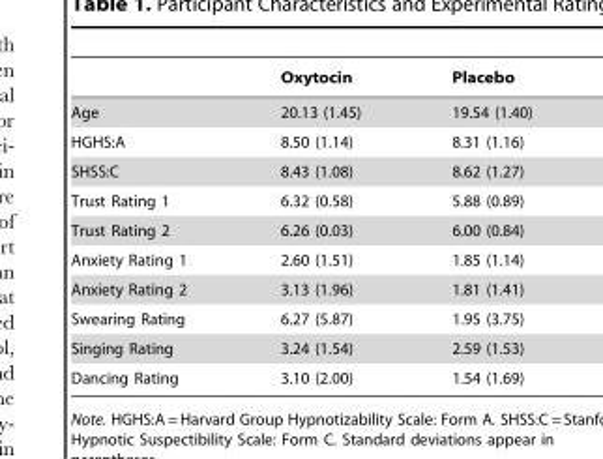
<table><thead><tr><td></td><td>Oxytocin</td><td>Placebo</td></tr></thead><tbody><tr><td>Age</td><td>20.13 (1.45)</td><td>19.54 (1.40)</td></tr><tr><td>HGHS:A</td><td>8.50 (1.14)</td><td>8.31 (1.16)</td></tr><tr><td>SHSS:C</td><td>8.43 (1.08)</td><td>8.62 (1.27)</td></tr><tr><td>Trust Rating 1</td><td>6.32 (0.58)</td><td>5.88 (0.89)</td></tr><tr><td>Trust Rating 2</td><td>6.26 (0.03)</td><td>6.00 (0.84)</td></tr><tr><td>Anxiety Rating 1</td><td>2.60 (1.51)</td><td>1.85 (1.14)</td></tr><tr><td>Anxiety Rating 2</td><td>3.13 (1.96)</td><td>1.81 (1.41)</td></tr><tr><td>Swearing Rating</td><td>6.27 (5.87)</td><td>1.95 (3.75)</td></tr><tr><td>Singing Rating</td><td>3.24 (1.54)</td><td>2.59 (1.53)</td></tr><tr><td>Dancing Rating</td><td>3.10 (2.00)</td><td>1.54 (1.69)</td></tr></tbody></table>